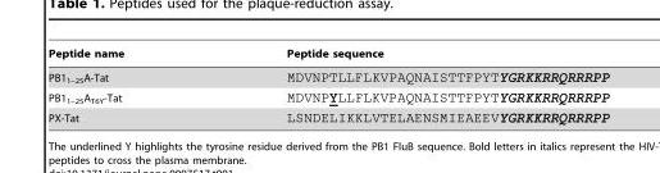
<table><thead><tr><td>Peptide name</td><td>Peptide sequence</td></tr></thead><tbody><tr><td>PB1<sub>1–25</sub>A-Tat</td><td>MDVNPTLLFLKVPAQNAISTTFPYTYGRKKRRQRRRPP</td></tr><tr><td>PB1<sub>1–25</sub>A<sub>T6Y</sub>-Tat</td><td>MDVNPYLLFLKVPAQNAISTTFPYTYGRKKRRQRRRPP</td></tr><tr><td>PX-Tat</td><td>LSNDELIKKLVTELAENSMIEAEEVYGRKKRRQRRRPP</td></tr></tbody></table>